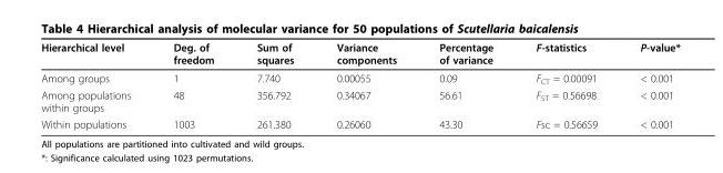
<table><thead><tr><td>Hierarchical level</td><td>Deg. of freedom</td><td>Sum of squares</td><td>Variance components</td><td>Percentage of variance</td><td>F-statistics</td><td>P-value*</td></tr></thead><tbody><tr><td>Among groups</td><td>1</td><td>7.740</td><td>0.00055</td><td>0.09</td><td>F<sub>CT</sub> = 0.00091</td><td>&lt; 0.001</td></tr><tr><td>Among populations within groups</td><td>48</td><td>356.792</td><td>0.34067</td><td>56.61</td><td>F<sub>ST</sub> = 0.56698</td><td>&lt; 0.001</td></tr><tr><td>Within populations</td><td>1003</td><td>261.380</td><td>0.26060</td><td>43.30</td><td>Fsc = 0.56659</td><td>&lt; 0.001</td></tr></tbody></table>